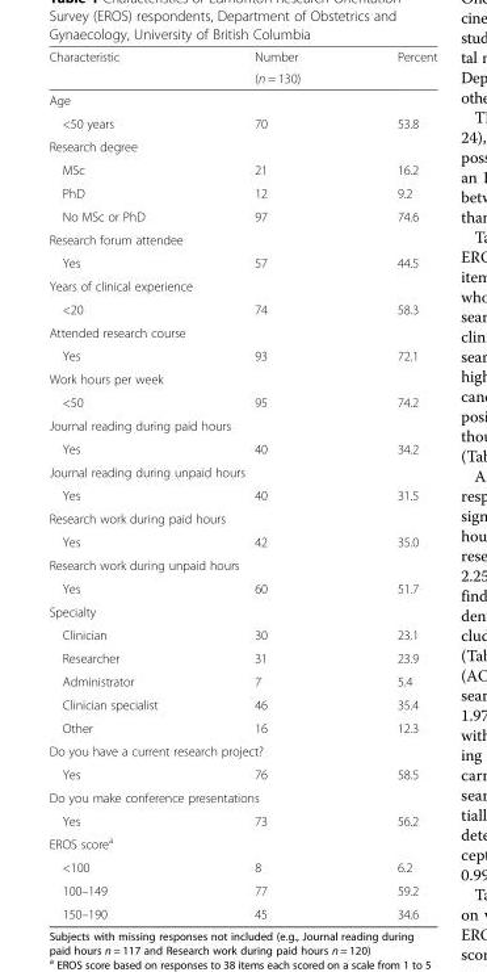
<table><thead><tr><td rowspan="2">Characteristic</td><td rowspan="2">Number (n = 130)</td><td rowspan="2">Percent</td></tr><tr></tr></thead><tbody><tr><td colspan="3">Age</td></tr><tr><td>&lt;50 years</td><td>70</td><td>53.8</td></tr><tr><td colspan="3">Research degree</td></tr><tr><td>MSc</td><td>21</td><td>16.2</td></tr><tr><td>PhD</td><td>12</td><td>9.2</td></tr><tr><td>No MSc or PhD</td><td>97</td><td>74.6</td></tr><tr><td colspan="3">Research forum attendee</td></tr><tr><td>Yes</td><td>57</td><td>44.5</td></tr><tr><td colspan="3">Years of clinical experience</td></tr><tr><td>&lt;20</td><td>74</td><td>58.3</td></tr><tr><td colspan="3">Attended research course</td></tr><tr><td>Yes</td><td>93</td><td>72.1</td></tr><tr><td colspan="3">Work hours per week</td></tr><tr><td>&lt;50</td><td>95</td><td>74.2</td></tr><tr><td colspan="3">Journal reading during paid hours</td></tr><tr><td>Yes</td><td>40</td><td>34.2</td></tr><tr><td colspan="3">Journal reading during unpaid hours</td></tr><tr><td>Yes</td><td>40</td><td>31.5</td></tr><tr><td colspan="3">Research work during paid hours</td></tr><tr><td>Yes</td><td>42</td><td>35.0</td></tr><tr><td colspan="3">Research work during unpaid hours</td></tr><tr><td>Yes</td><td>60</td><td>51.7</td></tr><tr><td colspan="3">Specialty</td></tr><tr><td>Clinician</td><td>30</td><td>23.1</td></tr><tr><td>Researcher</td><td>31</td><td>23.9</td></tr><tr><td>Administrator</td><td>7</td><td>5.4</td></tr><tr><td>Clinician specialist</td><td>46</td><td>35.4</td></tr><tr><td>Other</td><td>16</td><td>12.3</td></tr><tr><td colspan="3">Do you have a current research project?</td></tr><tr><td>Yes</td><td>76</td><td>58.5</td></tr><tr><td colspan="3">Do you make conference presentations</td></tr><tr><td>Yes</td><td>73</td><td>56.2</td></tr><tr><td colspan="3">EROS score<sup>a</sup></td></tr><tr><td>&lt;100</td><td>8</td><td>6.2</td></tr><tr><td>100–149</td><td>77</td><td>59.2</td></tr><tr><td>150–190</td><td>45</td><td>34.6</td></tr></tbody></table>